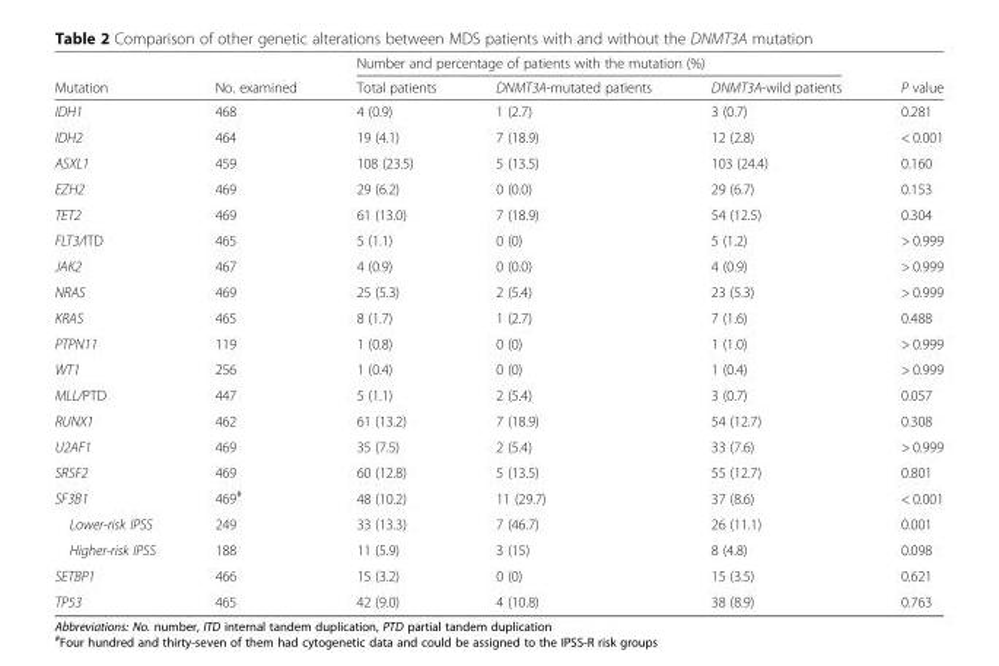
<table><thead><tr><td rowspan="2">Mutation</td><td rowspan="2">No. examined</td><td colspan="3">Number and percentage of patients with the mutation (%)</td><td rowspan="2">P value</td></tr><tr><td>Total patients</td><td>DNMT3A-mutated patients</td><td>DNMT3A-wild patients</td></tr></thead><tbody><tr><td>IDH1</td><td>468</td><td>4 (0.9)</td><td>1 (2.7)</td><td>3 (0.7)</td><td>0.281</td></tr><tr><td>IDH2</td><td>464</td><td>19 (4.1)</td><td>7 (18.9)</td><td>12 (2.8)</td><td>&lt; 0.001</td></tr><tr><td>ASXL1</td><td>459</td><td>108 (23.5)</td><td>5 (13.5)</td><td>103 (24.4)</td><td>0.160</td></tr><tr><td>EZH2</td><td>469</td><td>29 (6.2)</td><td>0 (0.0)</td><td>29 (6.7)</td><td>0.153</td></tr><tr><td>TET2</td><td>469</td><td>61 (13.0)</td><td>7 (18.9)</td><td>54 (12.5)</td><td>0.304</td></tr><tr><td>FLT3/ITD</td><td>465</td><td>5 (1.1)</td><td>0 (0)</td><td>5 (1.2)</td><td>&gt; 0.999</td></tr><tr><td>JAK2</td><td>467</td><td>4 (0.9)</td><td>0 (0.0)</td><td>4 (0.9)</td><td>&gt; 0.999</td></tr><tr><td>NRAS</td><td>469</td><td>25 (5.3)</td><td>2 (5.4)</td><td>23 (5.3)</td><td>&gt; 0.999</td></tr><tr><td>KRAS</td><td>465</td><td>8 (1.7)</td><td>1 (2.7)</td><td>7 (1.6)</td><td>0.488</td></tr><tr><td>PTPN11</td><td>119</td><td>1 (0.8)</td><td>0 (0)</td><td>1 (1.0)</td><td>&gt; 0.999</td></tr><tr><td>WT1</td><td>256</td><td>1 (0.4)</td><td>0 (0)</td><td>1 (0.4)</td><td>&gt; 0.999</td></tr><tr><td>MLL/PTD</td><td>447</td><td>5 (1.1)</td><td>2 (5.4)</td><td>3 (0.7)</td><td>0.057</td></tr><tr><td>RUNX1</td><td>462</td><td>61 (13.2)</td><td>7 (18.9)</td><td>54 (12.7)</td><td>0.308</td></tr><tr><td>U2AF1</td><td>469</td><td>35 (7.5)</td><td>2 (5.4)</td><td>33 (7.6)</td><td>&gt; 0.999</td></tr><tr><td>SRSF2</td><td>469</td><td>60 (12.8)</td><td>5 (13.5)</td><td>55 (12.7)</td><td>0.801</td></tr><tr><td>SF3B1</td><td>469<sup>#</sup></td><td>48 (10.2)</td><td>11 (29.7)</td><td>37 (8.6)</td><td>&lt; 0.001</td></tr><tr><td>Lower-risk IPSS</td><td>249</td><td>33 (13.3)</td><td>7 (46.7)</td><td>26 (11.1)</td><td>0.001</td></tr><tr><td>Higher-risk IPSS</td><td>188</td><td>11 (5.9)</td><td>3 (15)</td><td>8 (4.8)</td><td>0.098</td></tr><tr><td>SETBP1</td><td>466</td><td>15 (3.2)</td><td>0 (0)</td><td>15 (3.5)</td><td>0.621</td></tr><tr><td>TP53</td><td>465</td><td>42 (9.0)</td><td>4 (10.8)</td><td>38 (8.9)</td><td>0.763</td></tr></tbody></table>